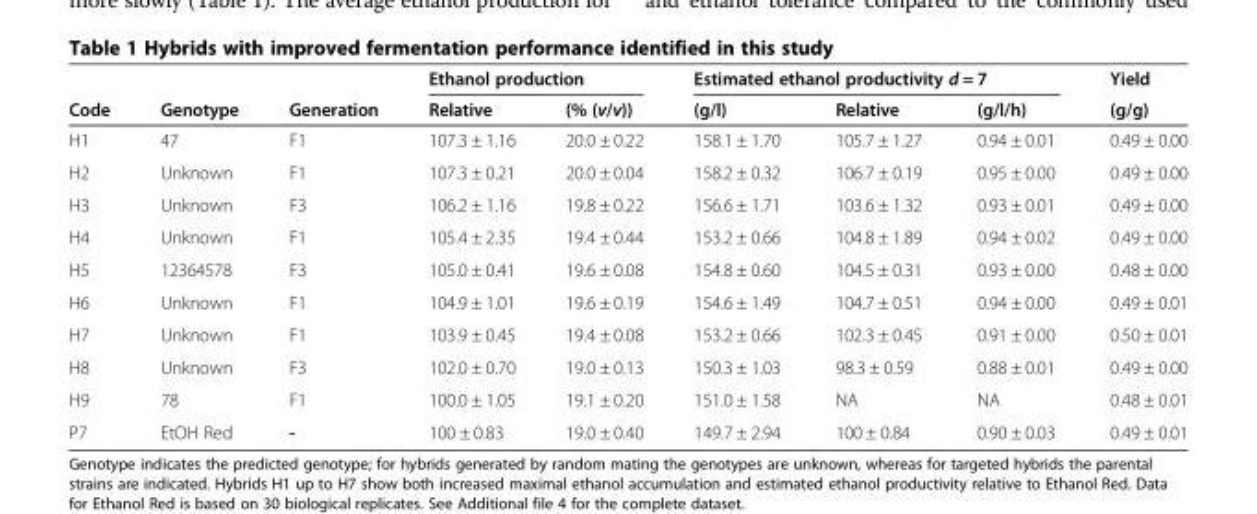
<table><thead><tr><td rowspan="2">Code</td><td rowspan="2">Genotype</td><td rowspan="2">Generation</td><td colspan="2">Ethanol production</td><td colspan="3">Estimated ethanol productivity d = 7</td><td rowspan="2">Yield (g/g)</td></tr><tr><td>Relative</td><td>(% (v/v))</td><td>(g/l)</td><td>Relative</td><td>(g/l/h)</td></tr></thead><tbody><tr><td>H1</td><td>47</td><td>F1</td><td>107.3 ± 1.16</td><td>20.0 ± 0.22</td><td>158.1 ± 1.70</td><td>105.7 ± 1.27</td><td>0.94 ± 0.01</td><td>0.49 ± 0.00</td></tr><tr><td>H2</td><td>Unknown</td><td>F1</td><td>107.3 ± 0.21</td><td>20.0 ± 0.04</td><td>158.2 ± 0.32</td><td>106.7 ± 0.19</td><td>0.95 ± 0.00</td><td>0.49 ± 0.00</td></tr><tr><td>H3</td><td>Unknown</td><td>F3</td><td>106.2 ± 1.16</td><td>19.8 ± 0.22</td><td>156.6 ± 1.71</td><td>103.6 ± 1.32</td><td>0.93 ± 0.01</td><td>0.49 ± 0.00</td></tr><tr><td>H4</td><td>Unknown</td><td>F1</td><td>105.4 ± 2.35</td><td>19.4 ± 0.44</td><td>153.2 ± 0.66</td><td>104.8 ± 1.89</td><td>0.94 ± 0.02</td><td>0.49 ± 0.00</td></tr><tr><td>H5</td><td>12364578</td><td>F3</td><td>105.0 ± 0.41</td><td>19.6 ± 0.08</td><td>154.8 ± 0.60</td><td>104.5 ± 0.31</td><td>0.93 ± 0.00</td><td>0.48 ± 0.00</td></tr><tr><td>H6</td><td>Unknown</td><td>F1</td><td>104.9 ± 1.01</td><td>19.6 ± 0.19</td><td>154.6 ± 1.49</td><td>104.7 ± 0.51</td><td>0.94 ± 0.00</td><td>0.49 ± 0.01</td></tr><tr><td>H7</td><td>Unknown</td><td>F1</td><td>103.9 ± 0.45</td><td>19.4 ± 0.08</td><td>153.2 ± 0.66</td><td>102.3 ± 0.45</td><td>0.91 ± 0.00</td><td>0.50 ± 0.01</td></tr><tr><td>H8</td><td>Unknown</td><td>F3</td><td>102.0 ± 0.70</td><td>19.0 ± 0.13</td><td>150.3 ± 1.03</td><td>98.3 ± 0.59</td><td>0.88 ± 0.01</td><td>0.49 ± 0.00</td></tr><tr><td>H9</td><td>78</td><td>F1</td><td>100.0 ± 1.05</td><td>19.1 ± 0.20</td><td>151.0 ± 1.58</td><td>NA</td><td>NA</td><td>0.48 ± 0.01</td></tr><tr><td>P7</td><td>EtOH Red</td><td>-</td><td>100 ± 0.83</td><td>19.0 ± 0.40</td><td>149.7 ± 2.94</td><td>100 ± 0.84</td><td>0.90 ± 0.03</td><td>0.49 ± 0.01</td></tr></tbody></table>